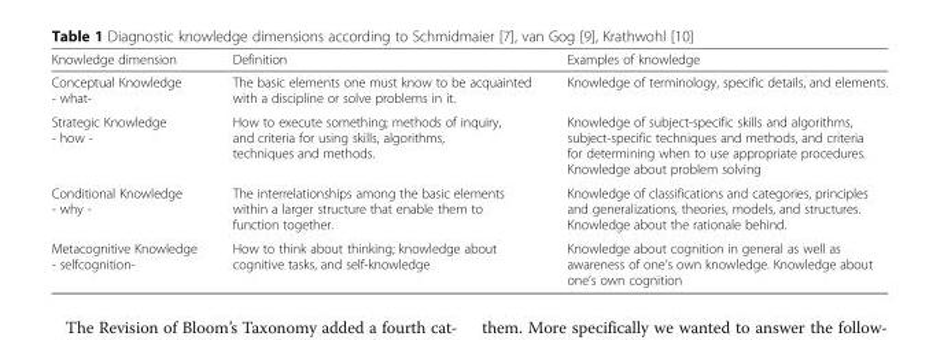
<table><thead><tr><td>Knowledge dimension</td><td>Definition</td><td>Examples of knowledge</td></tr></thead><tbody><tr><td>Conceptual Knowledge - what-</td><td>The basic elements one must know to be acquainted with a discipline or solve problems in it.</td><td>Knowledge of terminology, specific details, and elements.</td></tr><tr><td>Strategic Knowledge - how -</td><td>How to execute something; methods of inquiry, and criteria for using skills, algorithms, techniques and methods.</td><td>Knowledge of subject-specific skills and algorithms, subject-specific techniques and methods, and criteria for determining when to use appropriate procedures. Knowledge about problem solving</td></tr><tr><td>Conditional Knowledge - why -</td><td>The interrelationships among the basic elements within a larger structure that enable them to function together.</td><td>Knowledge of classifications and categories, principles and generalizations, theories, models, and structures. Knowledge about the rationale behind.</td></tr><tr><td>Metacognitive Knowledge - selfcognition-</td><td>How to think about thinking; knowledge about cognitive tasks, and self-knowledge</td><td>Knowledge about cognition in general as well as awareness of one’s own knowledge. Knowledge about one’s own cognition</td></tr></tbody></table>